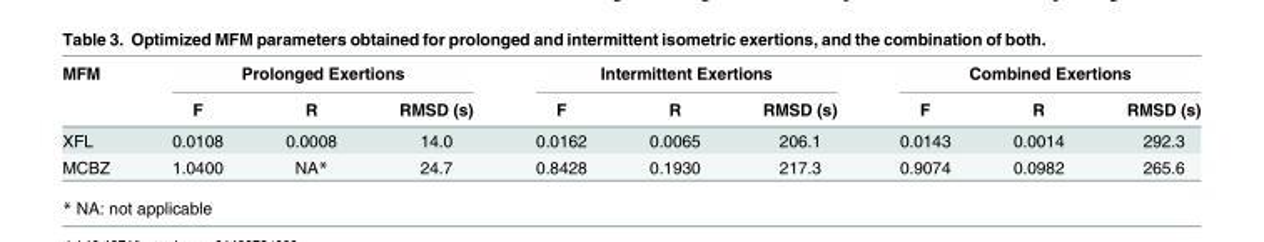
<table><thead><tr><td rowspan="2">MFM</td><td colspan="3">Prolonged Exertions</td><td colspan="3">Intermittent Exertions</td><td colspan="3">Combined Exertions</td></tr><tr><td>F</td><td>R</td><td>RMSD (s)</td><td>F</td><td>R</td><td>RMSD (s)</td><td>F</td><td>R</td><td>RMSD (s)</td></tr></thead><tbody><tr><td>XFL</td><td>0.0108</td><td>0.0008</td><td>14.0</td><td>0.0162</td><td>0.0065</td><td>206.1</td><td>0.0143</td><td>0.0014</td><td>292.3</td></tr><tr><td>MCBZ</td><td>1.0400</td><td>NA*</td><td>24.7</td><td>0.8428</td><td>0.1930</td><td>217.3</td><td>0.9074</td><td>0.0982</td><td>265.6</td></tr></tbody></table>